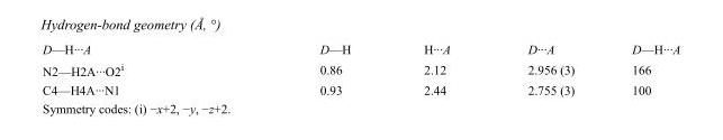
<table><tbody><tr><td>D—H···A</td><td>D—H</td><td>H···A</td><td>D···A</td><td>D—H···A</td></tr><tr><td>N2—H2A···O2<sup>i</sup></td><td>0.86</td><td>2.12</td><td>2.956 (3)</td><td>166</td></tr><tr><td>C4—H4A···N1</td><td>0.93</td><td>2.44</td><td>2.755 (3)</td><td>100</td></tr></tbody></table>